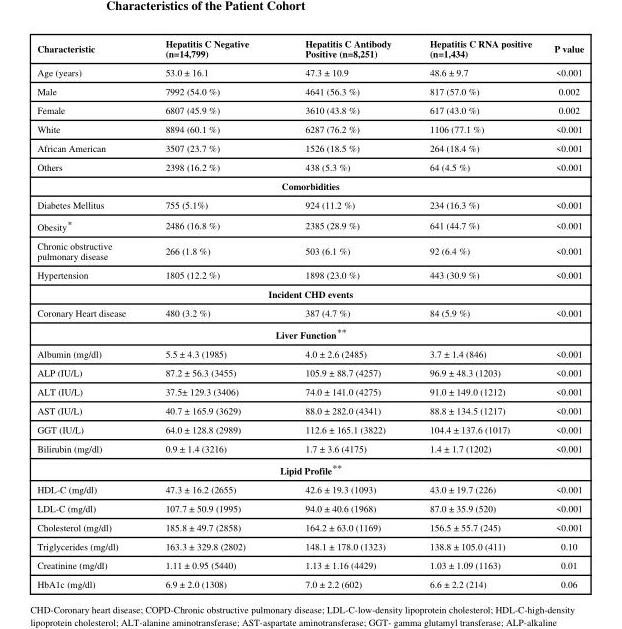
<table><thead><tr><td>Characteristic</td><td>Hepatitis C Negative (n=14,799)</td><td>Hepatitis C Antibody Positive (n=8,251)</td><td>Hepatitis C RNA positive (n=1,434)</td><td>P value</td></tr></thead><tbody><tr><td>Age (years)</td><td>53.0 ± 16.1</td><td>47.3 ± 10.9</td><td>48.6 ± 9.7</td><td>&lt;0.001</td></tr><tr><td>Male</td><td>7992 (54.0 %)</td><td>4641 (56.3 %)</td><td>817 (57.0 %)</td><td>0.002</td></tr><tr><td>Female</td><td>6807 (45.9 %)</td><td>3610 (43.8 %)</td><td>617 (43.0 %)</td><td>0.002</td></tr><tr><td>White</td><td>8894 (60.1 %)</td><td>6287 (76.2 %)</td><td>1106 (77.1 %)</td><td>&lt;0.001</td></tr><tr><td>African American</td><td>3507 (23.7 %)</td><td>1526 (18.5 %)</td><td>264 (18.4 %)</td><td>&lt;0.001</td></tr><tr><td>Others</td><td>2398 (16.2 %)</td><td>438 (5.3 %)</td><td>64 (4.5 %)</td><td>&lt;0.001</td></tr><tr><td colspan="5">Comorbidities</td></tr><tr><td>Diabetes Mellitus</td><td>755 (5.1%)</td><td>924 (11.2 %)</td><td>234 (16.3 %)</td><td>&lt;0.001</td></tr><tr><td>Obesity*</td><td>2486 (16.8 %)</td><td>2385 (28.9 %)</td><td>641 (44.7 %)</td><td>&lt;0.001</td></tr><tr><td>Chronic obstructive pulmonary disease</td><td>266 (1.8 %)</td><td>503 (6.1 %)</td><td>92 (6.4 %)</td><td>&lt;0.001</td></tr><tr><td>Hypertension</td><td>1805 (12.2 %)</td><td>1898 (23.0 %)</td><td>443 (30.9 %)</td><td>&lt;0.001</td></tr><tr><td colspan="5">Incident CHD events</td></tr><tr><td>Coronary Heart disease</td><td>480 (3.2 %)</td><td>387 (4.7 %)</td><td>84 (5.9 %)</td><td>&lt;0.001</td></tr><tr><td colspan="5">Liver Function**</td></tr><tr><td>Albumin (mg/dl)</td><td>5.5 ± 4.3 (1985)</td><td>4.0 ± 2.6 (2485)</td><td>3.7 ± 1.4 (846)</td><td>&lt;0.001</td></tr><tr><td>ALP (IU/L)</td><td>87.2 ± 56.3 (3455)</td><td>105.9 ± 88.7 (4257)</td><td>96.9 ± 48.3 (1203)</td><td>&lt;0.001</td></tr><tr><td>ALT (IU/L)</td><td>37.5± 129.3 (3406)</td><td>74.0 ± 141.0 (4275)</td><td>91.0 ± 149.0 (1212)</td><td>&lt;0.001</td></tr><tr><td>AST (IU/L)</td><td>40.7 ± 165.9 (3629)</td><td>88.0 ± 282.0 (4341)</td><td>88.8 ± 134.5 (1217)</td><td>&lt;0.001</td></tr><tr><td>GGT (IU/L)</td><td>64.0 ± 128.8 (2989)</td><td>112.6 ± 165.1 (3822)</td><td>104.4 ± 137.6 (1017)</td><td>&lt;0.001</td></tr><tr><td>Bilirubin (mg/dl)</td><td>0.9 ± 1.4 (3216)</td><td>1.7 ± 3.6 (4175)</td><td>1.4 ± 1.7 (1202)</td><td>&lt;0.001</td></tr><tr><td colspan="5">Lipid Profile**</td></tr><tr><td>HDL-C (mg/dl)</td><td>47.3 ± 16.2 (2655)</td><td>42.6 ± 19.3 (1093)</td><td>43.0 ± 19.7 (226)</td><td>&lt;0.001</td></tr><tr><td>LDL-C (mg/dl)</td><td>107.7 ± 50.9 (1995)</td><td>94.0 ± 40.6 (1968)</td><td>87.0 ± 35.9 (520)</td><td>&lt;0.001</td></tr><tr><td>Cholesterol (mg/dl)</td><td>185.8 ± 49.7 (2858)</td><td>164.2 ± 63.0 (1169)</td><td>156.5 ± 55.7 (245)</td><td>&lt;0.001</td></tr><tr><td>Triglycerides (mg/dl)</td><td>163.3 ± 329.8 (2802)</td><td>148.1 ± 178.0 (1323)</td><td>138.8 ± 105.0 (411)</td><td>0.10</td></tr><tr><td>Creatinine (mg/dl)</td><td>1.11 ± 0.95 (5440)</td><td>1.13 ± 1.16 (4429)</td><td>1.03 ± 1.09 (1163)</td><td>0.01</td></tr><tr><td>HbA1c (mg/dl)</td><td>6.9 ± 2.0 (1308)</td><td>7.0 ± 2.2 (602)</td><td>6.6 ± 2.2 (214)</td><td>0.06</td></tr></tbody></table>